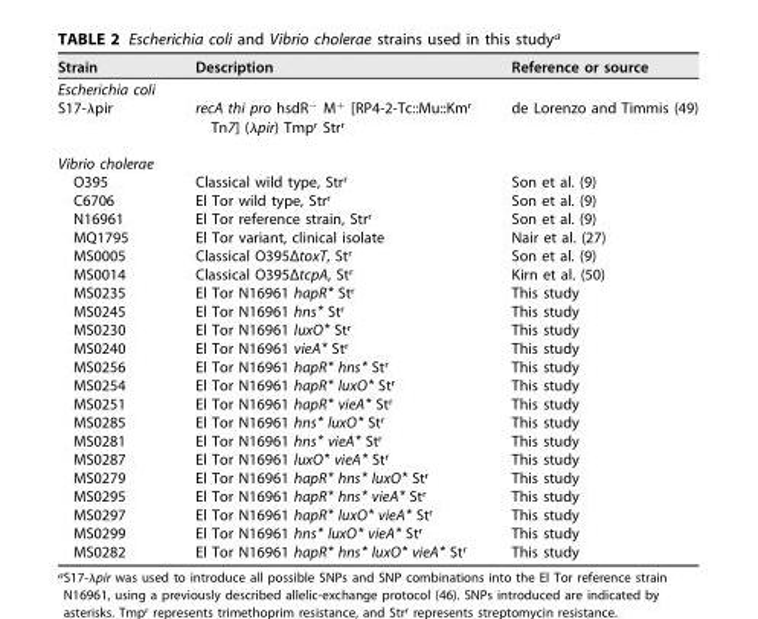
<table><thead><tr><td>Strain</td><td>Description</td><td>Reference or source</td></tr></thead><tbody><tr><td colspan="3">Escherichia coli</td></tr><tr><td>S17-λpir</td><td>recA thi pro hsdR<sup>−</sup> M<sup>+</sup> [RP4-2-Tc::Mu::Km<sup>r</sup> Tn7] (λpir) Tmp<sup>r</sup> Str<sup>r</sup></td><td>de Lorenzo and Timmis (49)</td></tr><tr><td colspan="3">Vibrio cholerae</td></tr><tr><td>O395</td><td>Classical wild type, Str<sup>r</sup></td><td>Son et al. (9)</td></tr><tr><td>C6706</td><td>El Tor wild type, Str<sup>r</sup></td><td>Son et al. (9)</td></tr><tr><td>N16961</td><td>El Tor reference strain, Str<sup>r</sup></td><td>Son et al. (9)</td></tr><tr><td>MQ1795</td><td>El Tor variant, clinical isolate</td><td>Nair et al. (27)</td></tr><tr><td>MS0005</td><td>Classical O395ΔtoxT, St<sup>r</sup></td><td>Son et al. (9)</td></tr><tr><td>MS0014</td><td>Classical O395ΔtcpA, St<sup>r</sup></td><td>Kirn et al. (50)</td></tr><tr><td>MS0235</td><td>El Tor N16961 hapR* St<sup>r</sup></td><td>This study</td></tr><tr><td>MS0245</td><td>El Tor N16961 hns* St<sup>r</sup></td><td>This study</td></tr><tr><td>MS0230</td><td>El Tor N16961 luxO* St<sup>r</sup></td><td>This study</td></tr><tr><td>MS0240</td><td>El Tor N16961 vieA* St<sup>r</sup></td><td>This study</td></tr><tr><td>MS0256</td><td>El Tor N16961 hapR* hns* St<sup>r</sup></td><td>This study</td></tr><tr><td>MS0254</td><td>El Tor N16961 hapR* luxO* St<sup>r</sup></td><td>This study</td></tr><tr><td>MS0251</td><td>El Tor N16961 hapR* vieA* St<sup>r</sup></td><td>This study</td></tr><tr><td>MS0285</td><td>El Tor N16961 hns* luxO* St<sup>r</sup></td><td>This study</td></tr><tr><td>MS0281</td><td>El Tor N16961 hns* vieA* St<sup>r</sup></td><td>This study</td></tr><tr><td>MS0287</td><td>El Tor N16961 luxO* vieA* St<sup>r</sup></td><td>This study</td></tr><tr><td>MS0279</td><td>El Tor N16961 hapR* hns* luxO* St<sup>r</sup></td><td>This study</td></tr><tr><td>MS0295</td><td>El Tor N16961 hapR* hns* vieA* St<sup>r</sup></td><td>This study</td></tr><tr><td>MS0297</td><td>El Tor N16961 hapR* luxO* vieA* St<sup>r</sup></td><td>This study</td></tr><tr><td>MS0299</td><td>El Tor N16961 hns* luxO* vieA* St<sup>r</sup></td><td>This study</td></tr><tr><td>MS0282</td><td>El Tor N16961 hapR* hns* luxO* vieA* St<sup>r</sup></td><td>This study</td></tr></tbody></table>